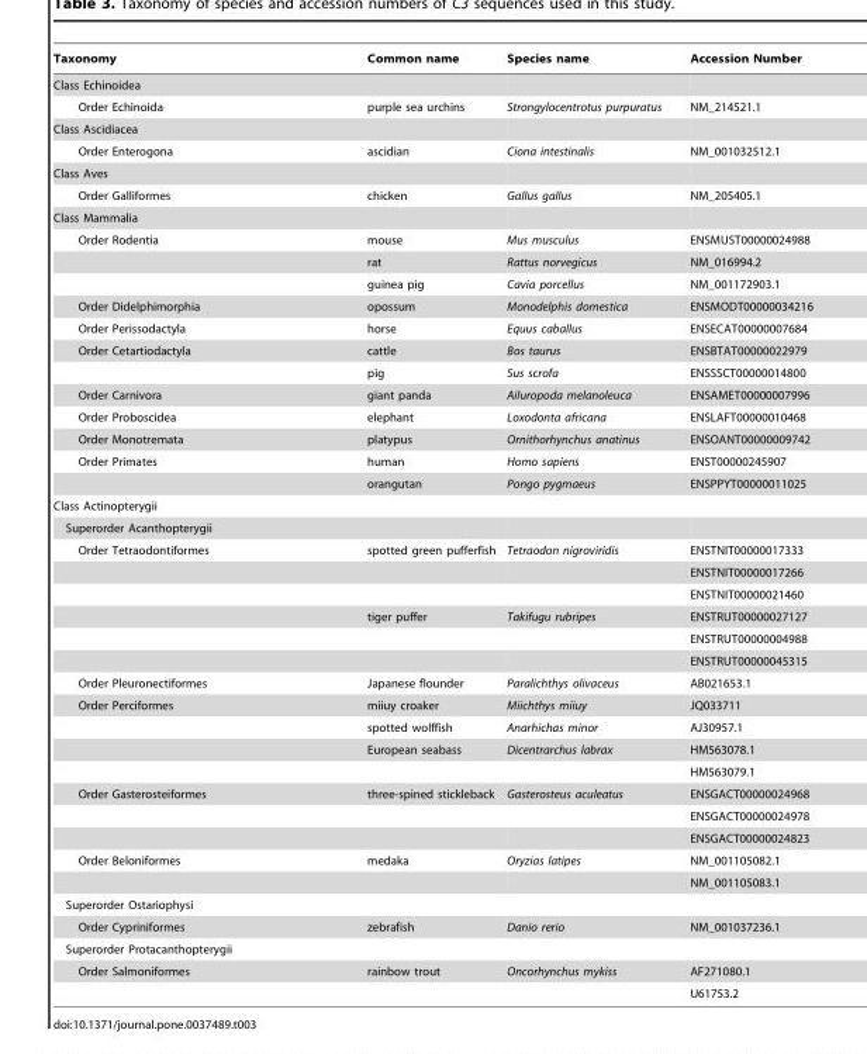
<table><thead><tr><td>Taxonomy</td><td>Common name</td><td>Species name</td><td>Accession Number</td></tr></thead><tbody><tr><td colspan="4">Class Echinoidea</td></tr><tr><td>Order Echinoida</td><td>purple sea urchins</td><td>Strongylocentrotus purpuratus</td><td>NM_214521.1</td></tr><tr><td colspan="4">Class Ascidiacea</td></tr><tr><td>Order Enterogona</td><td>ascidian</td><td>Ciona intestinalis</td><td>NM_001032512.1</td></tr><tr><td colspan="4">Class Aves</td></tr><tr><td>Order Galliformes</td><td>chicken</td><td>Gallus gallus</td><td>NM_205405.1</td></tr><tr><td colspan="4">Class Mammalia</td></tr><tr><td rowspan="3">Order Rodentia</td><td>mouse</td><td>Mus musculus</td><td>ENSMUST00000024988</td></tr><tr><td>rat</td><td>Rattus norvegicus</td><td>NM_016994.2</td></tr><tr><td>guinea pig</td><td>Cavia porcellus</td><td>NM_001172903.1</td></tr><tr><td>Order Didelphimorphia</td><td>opossum</td><td>Monodelphis domestica</td><td>ENSMODT00000034216</td></tr><tr><td>Order Perissodactyla</td><td>horse</td><td>Equus caballus</td><td>ENSECAT00000007684</td></tr><tr><td rowspan="2">Order Cetartiodactyla</td><td>cattle</td><td>Bos taurus</td><td>ENSBTAT00000022979</td></tr><tr><td>pig</td><td>Sus scrofa</td><td>ENSSSCT00000014800</td></tr><tr><td>Order Carnivora</td><td>giant panda</td><td>Ailuropoda melanoleuca</td><td>ENSAMET00000007996</td></tr><tr><td>Order Proboscidea</td><td>elephant</td><td>Loxodonta africana</td><td>ENSLAFT00000010468</td></tr><tr><td>Order Monotremata</td><td>platypus</td><td>Ornithorhynchus anatinus</td><td>ENSOANT00000009742</td></tr><tr><td rowspan="2">Order Primates</td><td>human</td><td>Homo sapiens</td><td>ENST00000245907</td></tr><tr><td>orangutan</td><td>Pongo pygmaeus</td><td>ENSPPYT00000011025</td></tr><tr><td colspan="4">Class Actinopterygii</td></tr><tr><td colspan="4">Superorder Acanthopterygii</td></tr><tr><td rowspan="6">Order Tetraodontiformes</td><td>spotted green pufferfish</td><td>Tetraodon nigroviridis</td><td>ENSTNIT00000017333</td></tr><tr><td></td><td></td><td>ENSTNIT00000017266</td></tr><tr><td></td><td></td><td>ENSTNIT00000021460</td></tr><tr><td>tiger puffer</td><td>Takifugu rubripes</td><td>ENSTRUT00000027127</td></tr><tr><td></td><td></td><td>ENSTRUT00000004988</td></tr><tr><td></td><td></td><td>ENSTRUT00000045315</td></tr><tr><td>Order Pleuronectiformes</td><td>Japanese flounder</td><td>Paralichthys olivaceus</td><td>AB021653.1</td></tr><tr><td rowspan="4">Order Perciformes</td><td>miiuy croaker</td><td>Miichthys miiuy</td><td>JQ033711</td></tr><tr><td>spotted wolffish</td><td>Anarhichas minor</td><td>AJ30957.1</td></tr><tr><td>European seabass</td><td>Dicentrarchus labrax</td><td>HM563078.1</td></tr><tr><td></td><td></td><td>HM563079.1</td></tr><tr><td rowspan="3">Order Gasterosteiformes</td><td>three-spined stickleback</td><td>Gasterosteus aculeatus</td><td>ENSGACT00000024968</td></tr><tr><td></td><td></td><td>ENSGACT00000024978</td></tr><tr><td></td><td></td><td>ENSGACT00000024823</td></tr><tr><td rowspan="2">Order Beloniformes</td><td>medaka</td><td>Oryzias latipes</td><td>NM_001105082.1</td></tr><tr><td></td><td></td><td>NM_001105083.1</td></tr><tr><td colspan="4">Superorder Ostariophysi</td></tr><tr><td>Order Cypriniformes</td><td>zebrafish</td><td>Danio rerio</td><td>NM_001037236.1</td></tr><tr><td colspan="4">Superorder Protacanthopterygii</td></tr><tr><td rowspan="2">Order Salmoniformes</td><td>rainbow trout</td><td>Oncorhynchus mykiss</td><td>AF271080.1</td></tr><tr><td></td><td></td><td>U61753.2</td></tr></tbody></table>